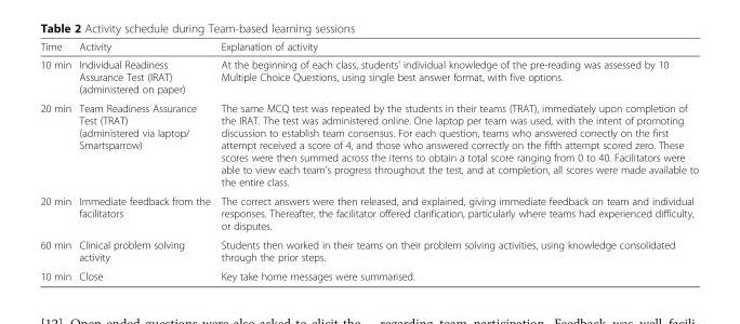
<table><thead><tr><td>Time</td><td>Activity</td><td>Explanation of activity</td></tr></thead><tbody><tr><td>10 min</td><td>Individual Readiness Assurance Test (IRAT) (administered on paper)</td><td>At the beginning of each class, students’ individual knowledge of the pre-reading was assessed by 10 Multiple Choice Questions, using single best answer format, with five options.</td></tr><tr><td>20 min</td><td>Team Readiness Assurance Test (TRAT) (administered via laptop/ Smartsparrow)</td><td>The same MCQ test was repeated by the students in their teams (TRAT), immediately upon completion of the IRAT. The test was administered online. One laptop per team was used, with the intent of promoting discussion to establish team consensus. For each question, teams who answered correctly on the first attempt received a score of 4, and those who answered correctly on the fifth attempt scored zero. These scores were then summed across the items to obtain a total score ranging from 0 to 40. Facilitators were able to view each team’s progress throughout the test, and at completion, all scores were made available to the entire class.</td></tr><tr><td>20 min</td><td>Immediate feedback from the facilitators</td><td>The correct answers were then released, and explained, giving immediate feedback on team and individual responses. Thereafter, the facilitator offered clarification, particularly where teams had experienced difficulty, or disputes.</td></tr><tr><td>60 min</td><td>Clinical problem solving activity</td><td>Students then worked in their teams on their problem solving activities, using knowledge consolidated through the prior steps.</td></tr><tr><td>10 min</td><td>Close</td><td>Key take home messages were summarised.</td></tr></tbody></table>